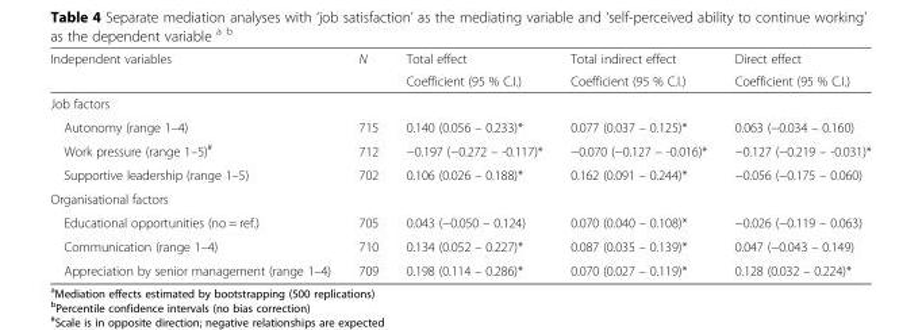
<table><thead><tr><td rowspan="2">Independent variables</td><td rowspan="2">N</td><td rowspan="2">Total effect Coefficient (95 % C.I.)</td><td rowspan="2">Total indirect effect Coefficient (95 % C.I.)</td><td rowspan="2">Direct effect Coefficient (95 % C.I.)</td></tr><tr></tr></thead><tbody><tr><td colspan="5">Job factors</td></tr><tr><td>Autonomy (range 1–4)</td><td>715</td><td>0.140 (0.056 – 0.233)*</td><td>0.077 (0.037 – 0.125)*</td><td>0.063 (−0.034 – 0.160)</td></tr><tr><td>Work pressure (range 1–5)<sup>#</sup></td><td>712</td><td>−0.197 (−0.272 – -0.117)*</td><td>−0.070 (−0.127 – -0.016)*</td><td>−0.127 (−0.219 – -0.031)*</td></tr><tr><td>Supportive leadership (range 1–5)</td><td>702</td><td>0.106 (0.026 – 0.188)*</td><td>0.162 (0.091 – 0.244)*</td><td>−0.056 (−0.175 – 0.060)</td></tr><tr><td colspan="5">Organisational factors</td></tr><tr><td>Educational opportunities (no = ref.)</td><td>705</td><td>0.043 (−0.050 – 0.124)</td><td>0.070 (0.040 – 0.108)*</td><td>−0.026 (−0.119 – 0.063)</td></tr><tr><td>Communication (range 1–4)</td><td>710</td><td>0.134 (0.052 – 0.227)*</td><td>0.087 (0.035 – 0.139)*</td><td>0.047 (−0.043 – 0.149)</td></tr><tr><td>Appreciation by senior management (range 1–4)</td><td>709</td><td>0.198 (0.114 – 0.286)*</td><td>0.070 (0.027 – 0.119)*</td><td>0.128 (0.032 – 0.224)*</td></tr></tbody></table>